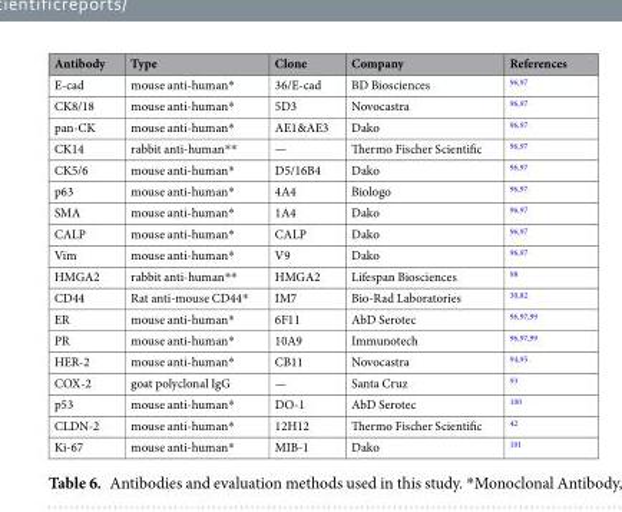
<table><thead><tr><td>Antibody</td><td>Type</td><td>Clone</td><td>Company</td><td>References</td></tr></thead><tbody><tr><td>E-cad</td><td>mouse anti-human*</td><td>36/E-cad</td><td>BD Biosciences</td><td><sup>96,97</sup></td></tr><tr><td>CK8/18</td><td>mouse anti-human*</td><td>5D3</td><td>Novocastra</td><td><sup>96,97</sup></td></tr><tr><td>pan-CK</td><td>mouse anti-human*</td><td>AE1&amp;AE3</td><td>Dako</td><td><sup>96,97</sup></td></tr><tr><td>CK14</td><td>rabbit anti-human**</td><td>—</td><td>Thermo Fischer Scientific</td><td><sup>96,97</sup></td></tr><tr><td>CK5/6</td><td>mouse anti-human*</td><td>D5/16B4</td><td>Dako</td><td><sup>96,97</sup></td></tr><tr><td>p63</td><td>mouse anti-human*</td><td>4A4</td><td>Biologo</td><td><sup>96,97</sup></td></tr><tr><td>SMA</td><td>mouse anti-human*</td><td>1A4</td><td>Dako</td><td><sup>96,97</sup></td></tr><tr><td>CALP</td><td>mouse anti-human*</td><td>CALP</td><td>Dako</td><td><sup>96,97</sup></td></tr><tr><td>Vim</td><td>mouse anti-human*</td><td>V9</td><td>Dako</td><td><sup>96,97</sup></td></tr><tr><td>HMGA2</td><td>rabbit anti-human**</td><td>HMGA2</td><td>Lifespan Biosciences</td><td><sup>98</sup></td></tr><tr><td>CD44</td><td>Rat anti-mouse CD44*</td><td>IM7</td><td>Bio-Rad Laboratories</td><td><sup>30,82</sup></td></tr><tr><td>ER</td><td>mouse anti-human*</td><td>6F11</td><td>AbD Serotec</td><td><sup>96,97,99</sup></td></tr><tr><td>PR</td><td>mouse anti-human*</td><td>10A9</td><td>Immunotech</td><td><sup>96,97,99</sup></td></tr><tr><td>HER-2</td><td>mouse anti-human*</td><td>CB11</td><td>Novocastra</td><td><sup>94,95</sup></td></tr><tr><td>COX-2</td><td>goat polyclonal IgG</td><td>—</td><td>Santa Cruz</td><td><sup>93</sup></td></tr><tr><td>p53</td><td>mouse anti-human*</td><td>DO-1</td><td>AbD Serotec</td><td><sup>100</sup></td></tr><tr><td>CLDN-2</td><td>mouse anti-human*</td><td>12H12</td><td>Thermo Fischer Scientific</td><td><sup>42</sup></td></tr><tr><td>Ki-67</td><td>mouse anti-human*</td><td>MIB-1</td><td>Dako</td><td><sup>101</sup></td></tr></tbody></table>